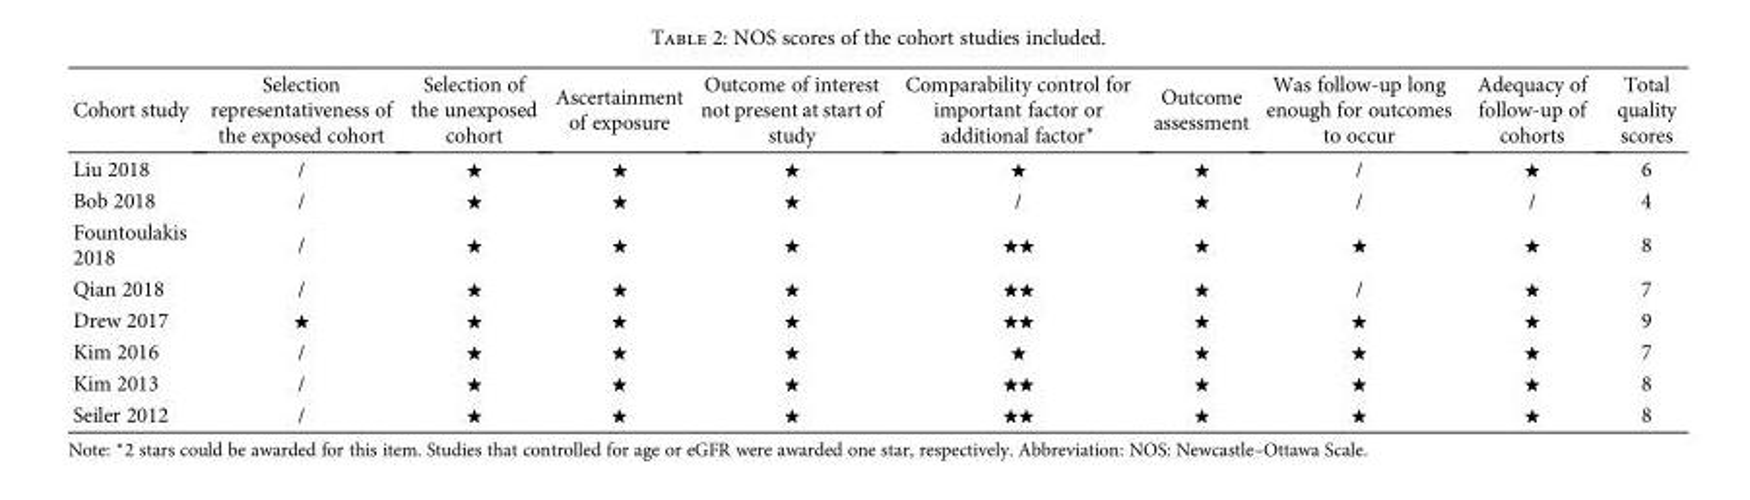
<table><thead><tr><td>Cohort study</td><td>Selection representativeness of the exposed cohort</td><td>Selection of the unexposed cohort</td><td>Ascertainment of exposure</td><td>Outcome of interest not present at start of study</td><td>Comparability control for important factor or additional factor∗</td><td>Outcome assessment</td><td>Was follow-up long enough for outcomes to occur</td><td>Adequacy of follow-up of cohorts</td><td>Total quality scores</td></tr></thead><tbody><tr><td>Liu 2018</td><td>/</td><td>★</td><td>★</td><td>★</td><td>★</td><td>★</td><td>/</td><td>★</td><td>6</td></tr><tr><td>Bob 2018</td><td>/</td><td>★</td><td>★</td><td>★</td><td>/</td><td>★</td><td>/</td><td>/</td><td>4</td></tr><tr><td>Fountoulakis 2018</td><td>/</td><td>★</td><td>★</td><td>★</td><td>★★</td><td>★</td><td>★</td><td>★</td><td>8</td></tr><tr><td>Qian 2018</td><td>/</td><td>★</td><td>★</td><td>★</td><td>★★</td><td>★</td><td>/</td><td>★</td><td>7</td></tr><tr><td>Drew 2017</td><td>★</td><td>★</td><td>★</td><td>★</td><td>★★</td><td>★</td><td>★</td><td>★</td><td>9</td></tr><tr><td>Kim 2016</td><td>/</td><td>★</td><td>★</td><td>★</td><td>★</td><td>★</td><td>★</td><td>★</td><td>7</td></tr><tr><td>Kim 2013</td><td>/</td><td>★</td><td>★</td><td>★</td><td>★★</td><td>★</td><td>★</td><td>★</td><td>8</td></tr><tr><td>Seiler 2012</td><td>/</td><td>★</td><td>★</td><td>★</td><td>★★</td><td>★</td><td>★</td><td>★</td><td>8</td></tr></tbody></table>